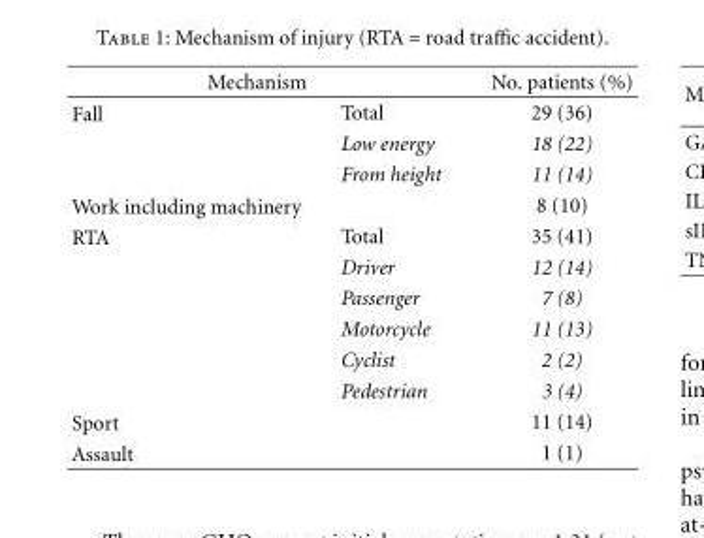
<table><thead><tr><td colspan="2">Mechanism</td><td rowspan="2">No. patients (%) 29 (36)</td></tr><tr><td>Fall</td><td>Total</td></tr></thead><tbody><tr><td></td><td>Low energy</td><td>18 (22)</td></tr><tr><td></td><td>From height</td><td>11 (14)</td></tr><tr><td>Work including machinery</td><td></td><td>8 (10)</td></tr><tr><td rowspan="6">RTA</td><td>Total</td><td>35 (41)</td></tr><tr><td>Driver</td><td>12 (14)</td></tr><tr><td>Passenger</td><td>7 (8)</td></tr><tr><td>Motorcycle</td><td>11 (13)</td></tr><tr><td>Cyclist</td><td>2 (2)</td></tr><tr><td>Pedestrian</td><td>3 (4)</td></tr><tr><td>Sport</td><td></td><td>11 (14)</td></tr><tr><td>Assault</td><td></td><td>1 (1)</td></tr></tbody></table>